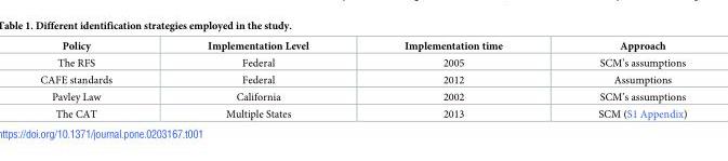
<table><thead><tr><td>Policy</td><td>Implementation Level</td><td>Implementation time</td><td>Approach</td></tr></thead><tbody><tr><td>The RFS</td><td>Federal</td><td>2005</td><td>SCM’s assumptions</td></tr><tr><td>CAFE standards</td><td>Federal</td><td>2012</td><td>Assumptions</td></tr><tr><td>Pavley Law</td><td>California</td><td>2002</td><td>SCM’s assumptions</td></tr><tr><td>The CAT</td><td>Multiple States</td><td>2013</td><td>SCM (S1 Appendix)</td></tr></tbody></table>